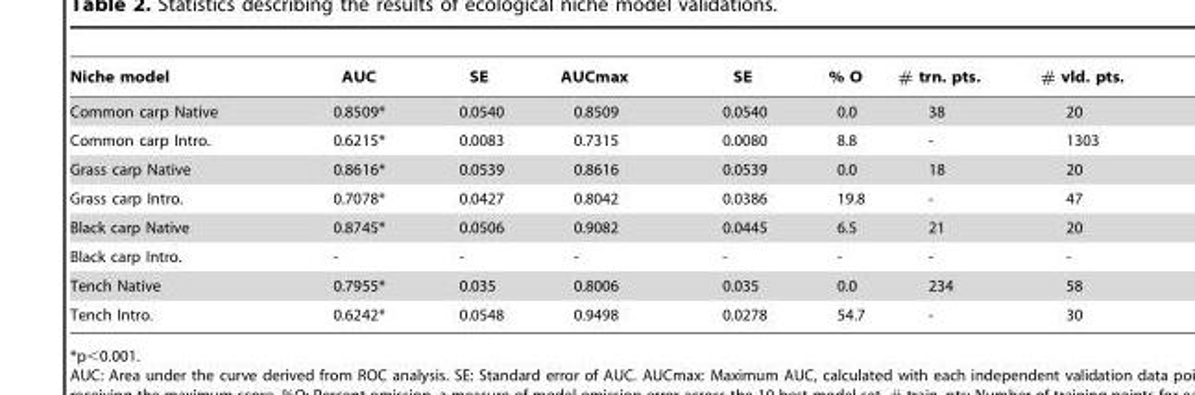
<table><thead><tr><td>Niche model</td><td>AUC</td><td>SE</td><td>AUCmax</td><td>SE</td><td>% O</td><td># trn. pts.</td><td># vld. pts.</td></tr></thead><tbody><tr><td>Common carp Native</td><td>0.8509*</td><td>0.0540</td><td>0.8509</td><td>0.0540</td><td>0.0</td><td>38</td><td>20</td></tr><tr><td>Common carp Intro.</td><td>0.6215*</td><td>0.0083</td><td>0.7315</td><td>0.0080</td><td>8.8</td><td>-</td><td>1303</td></tr><tr><td>Grass carp Native</td><td>0.8616*</td><td>0.0539</td><td>0.8616</td><td>0.0539</td><td>0.0</td><td>18</td><td>20</td></tr><tr><td>Grass carp Intro.</td><td>0.7078*</td><td>0.0427</td><td>0.8042</td><td>0.0386</td><td>19.8</td><td>-</td><td>47</td></tr><tr><td>Black carp Native</td><td>0.8745*</td><td>0.0506</td><td>0.9082</td><td>0.0445</td><td>6.5</td><td>21</td><td>20</td></tr><tr><td>Black carp Intro.</td><td>-</td><td>-</td><td>-</td><td>-</td><td>-</td><td>-</td><td>-</td></tr><tr><td>Tench Native</td><td>0.7955*</td><td>0.035</td><td>0.8006</td><td>0.035</td><td>0.0</td><td>234</td><td>58</td></tr><tr><td>Tench Intro.</td><td>0.6242*</td><td>0.0548</td><td>0.9498</td><td>0.0278</td><td>54.7</td><td>-</td><td>30</td></tr></tbody></table>